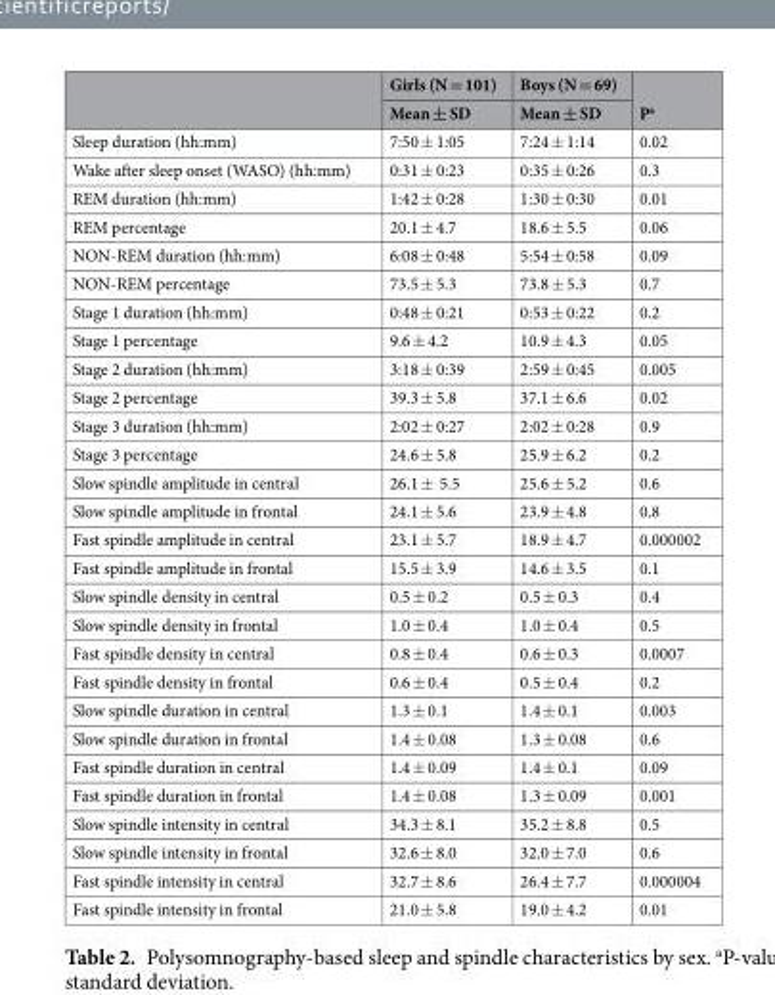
<table><thead><tr><td rowspan="2"></td><td rowspan="2">Girls (N = 101) Mean ± SD</td><td rowspan="2">Boys (N = 69) Mean ± SD</td><td rowspan="2">P<sup>a</sup></td></tr><tr></tr></thead><tbody><tr><td>Sleep duration (hh:mm)</td><td>7:50 ± 1:05</td><td>7:24 ± 1:14</td><td>0.02</td></tr><tr><td>Wake after sleep onset (WASO) (hh:mm)</td><td>0:31 ± 0:23</td><td>0:35 ± 0:26</td><td>0.3</td></tr><tr><td>REM duration (hh:mm)</td><td>1:42 ± 0:28</td><td>1:30 ± 0:30</td><td>0.01</td></tr><tr><td>REM percentage</td><td>20.1 ± 4.7</td><td>18.6 ± 5.5</td><td>0.06</td></tr><tr><td>NON-REM duration (hh:mm)</td><td>6:08 ± 0:48</td><td>5:54 ± 0:58</td><td>0.09</td></tr><tr><td>NON-REM percentage</td><td>73.5 ± 5.3</td><td>73.8 ± 5.3</td><td>0.7</td></tr><tr><td>Stage 1 duration (hh:mm)</td><td>0:48 ± 0:21</td><td>0:53 ± 0:22</td><td>0.2</td></tr><tr><td>Stage 1 percentage</td><td>9.6 ± 4.2</td><td>10.9 ± 4.3</td><td>0.05</td></tr><tr><td>Stage 2 duration (hh:mm)</td><td>3:18 ± 0:39</td><td>2:59 ± 0:45</td><td>0.005</td></tr><tr><td>Stage 2 percentage</td><td>39.3 ± 5.8</td><td>37.1 ± 6.6</td><td>0.02</td></tr><tr><td>Stage 3 duration (hh:mm)</td><td>2:02 ± 0:27</td><td>2:02 ± 0:28</td><td>0.9</td></tr><tr><td>Stage 3 percentage</td><td>24.6 ± 5.8</td><td>25.9 ± 6.2</td><td>0.2</td></tr><tr><td>Slow spindle amplitude in central</td><td>26.1 ± 5.5</td><td>25.6 ± 5.2</td><td>0.6</td></tr><tr><td>Slow spindle amplitude in frontal</td><td>24.1 ± 5.6</td><td>23.9 ± 4.8</td><td>0.8</td></tr><tr><td>Fast spindle amplitude in central</td><td>23.1 ± 5.7</td><td>18.9 ± 4.7</td><td>0.000002</td></tr><tr><td>Fast spindle amplitude in frontal</td><td>15.5 ± 3.9</td><td>14.6 ± 3.5</td><td>0.1</td></tr><tr><td>Slow spindle density in central</td><td>0.5 ± 0.2</td><td>0.5 ± 0.3</td><td>0.4</td></tr><tr><td>Slow spindle density in frontal</td><td>1.0 ± 0.4</td><td>1.0 ± 0.4</td><td>0.5</td></tr><tr><td>Fast spindle density in central</td><td>0.8 ± 0.4</td><td>0.6 ± 0.3</td><td>0.0007</td></tr><tr><td>Fast spindle density in frontal</td><td>0.6 ± 0.4</td><td>0.5 ± 0.4</td><td>0.2</td></tr><tr><td>Slow spindle duration in central</td><td>1.3 ± 0.1</td><td>1.4 ± 0.1</td><td>0.003</td></tr><tr><td>Slow spindle duration in frontal</td><td>1.4 ± 0.08</td><td>1.3 ± 0.08</td><td>0.6</td></tr><tr><td>Fast spindle duration in central</td><td>1.4 ± 0.09</td><td>1.4 ± 0.1</td><td>0.09</td></tr><tr><td>Fast spindle duration in frontal</td><td>1.4 ± 0.08</td><td>1.3 ± 0.09</td><td>0.001</td></tr><tr><td>Slow spindle intensity in central</td><td>34.3 ± 8.1</td><td>35.2 ± 8.8</td><td>0.5</td></tr><tr><td>Slow spindle intensity in frontal</td><td>32.6 ± 8.0</td><td>32.0 ± 7.0</td><td>0.6</td></tr><tr><td>Fast spindle intensity in central</td><td>32.7 ± 8.6</td><td>26.4 ± 7.7</td><td>0.000004</td></tr><tr><td>Fast spindle intensity in frontal</td><td>21.0 ± 5.8</td><td>19.0 ± 4.2</td><td>0.01</td></tr></tbody></table>